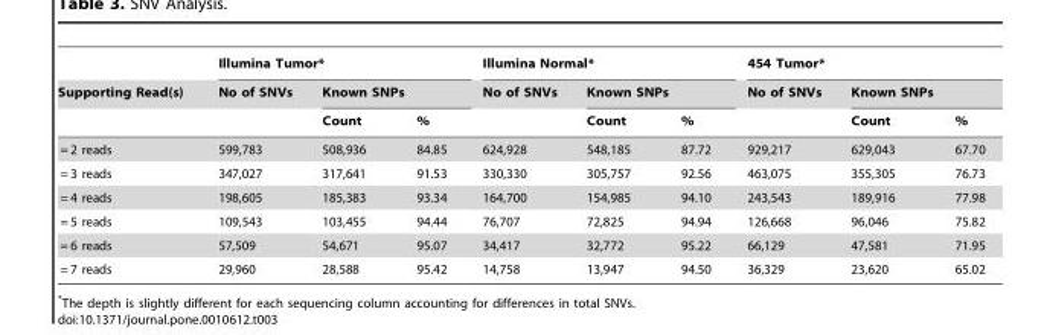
<table><thead><tr><td rowspan="3">Supporting Read(s)</td><td colspan="3">Illumina Tumor*</td><td colspan="3">Illumina Normal*</td><td colspan="3">454 Tumor*</td></tr><tr><td rowspan="2">No of SNVs</td><td colspan="2">Known SNPs</td><td rowspan="2">No of SNVs</td><td colspan="2">Known SNPs</td><td rowspan="2">No of SNVs</td><td colspan="2">Known SNPs</td></tr><tr><td>Count</td><td>%</td><td>Count</td><td>%</td><td>Count</td><td>%</td></tr></thead><tbody><tr><td>= 2 reads</td><td>599,783</td><td>508,936</td><td>84.85</td><td>624,928</td><td>548,185</td><td>87.72</td><td>929,217</td><td>629,043</td><td>67.70</td></tr><tr><td>= 3 reads</td><td>347,027</td><td>317,641</td><td>91.53</td><td>330,330</td><td>305,757</td><td>92.56</td><td>463,075</td><td>355,305</td><td>76.73</td></tr><tr><td>= 4 reads</td><td>198,605</td><td>185,383</td><td>93.34</td><td>164,700</td><td>154,985</td><td>94.10</td><td>243,543</td><td>189,916</td><td>77.98</td></tr><tr><td>= 5 reads</td><td>109,543</td><td>103,455</td><td>94.44</td><td>76,707</td><td>72,825</td><td>94.94</td><td>126,668</td><td>96,046</td><td>75.82</td></tr><tr><td>= 6 reads</td><td>57,509</td><td>54,671</td><td>95.07</td><td>34,417</td><td>32,772</td><td>95.22</td><td>66,129</td><td>47,581</td><td>71.95</td></tr><tr><td>= 7 reads</td><td>29,960</td><td>28,588</td><td>95.42</td><td>14,758</td><td>13,947</td><td>94.50</td><td>36,329</td><td>23,620</td><td>65.02</td></tr></tbody></table>